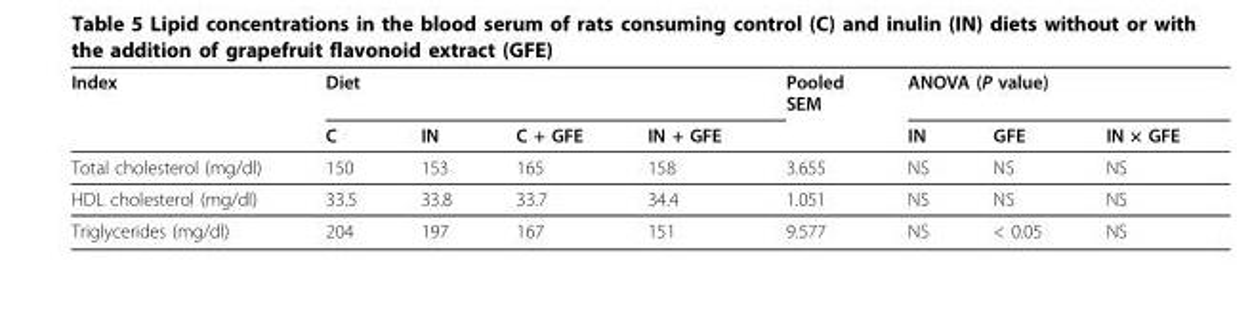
<table><thead><tr><td rowspan="2">Index</td><td colspan="4">Diet</td><td rowspan="2">Pooled SEM</td><td colspan="3">ANOVA (P value)</td></tr><tr><td>C</td><td>IN</td><td>C + GFE</td><td>IN + GFE</td><td>IN</td><td>GFE</td><td>IN × GFE</td></tr></thead><tbody><tr><td>Total cholesterol (mg/dl)</td><td>150</td><td>153</td><td>165</td><td>158</td><td>3.655</td><td>NS</td><td>NS</td><td>NS</td></tr><tr><td>HDL cholesterol (mg/dl)</td><td>33.5</td><td>33.8</td><td>33.7</td><td>34.4</td><td>1.051</td><td>NS</td><td>NS</td><td>NS</td></tr><tr><td>Triglycerides (mg/dl)</td><td>204</td><td>197</td><td>167</td><td>151</td><td>9.577</td><td>NS</td><td>&lt; 0.05</td><td>NS</td></tr></tbody></table>